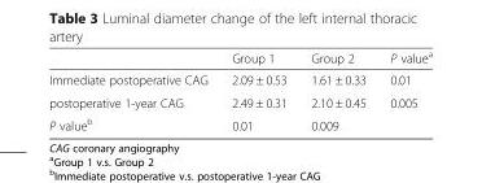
<table><thead><tr><td></td><td>Group 1</td><td>Group 2</td><td>P value<sup>a</sup></td></tr></thead><tbody><tr><td>Immediate postoperative CAG</td><td>2.09 ± 0.53</td><td>1.61 ± 0.33</td><td>0.01</td></tr><tr><td>postoperative 1-year CAG</td><td>2.49 ± 0.31</td><td>2.10 ± 0.45</td><td>0.005</td></tr><tr><td>P value<sup>b</sup></td><td>0.01</td><td>0.009</td><td></td></tr></tbody></table>